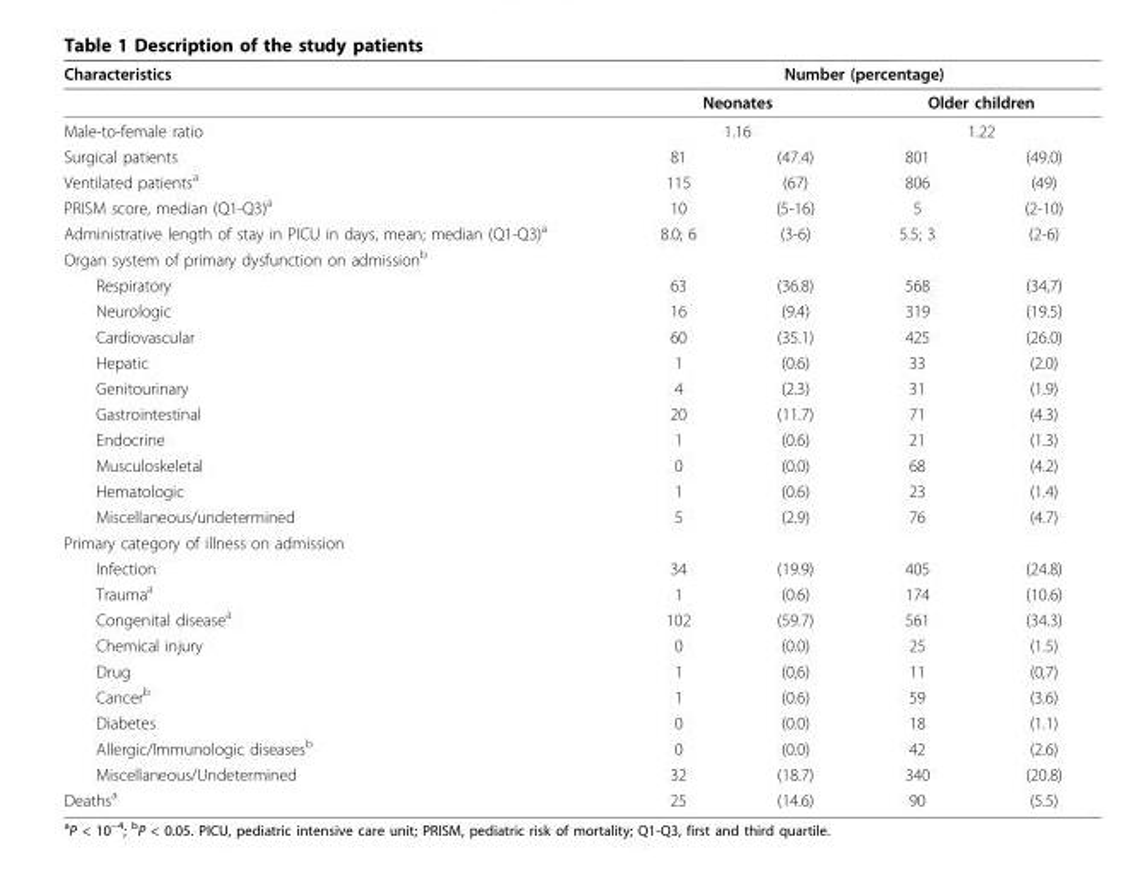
<table><thead><tr><td rowspan="4">Characteristics Male-to-female ratio Surgical patients</td><td colspan="4">Number (percentage)</td></tr><tr><td rowspan="2" colspan="2">Neonates 1.16</td><td rowspan="2" colspan="2">Older children 1.22</td></tr><tr></tr><tr><td>81</td><td>(47.4)</td><td>801</td><td>(49.0)</td></tr></thead><tbody><tr><td>Ventilated patients<sup>a</sup></td><td>115</td><td>(67)</td><td>806</td><td>(49)</td></tr><tr><td>PRISM score, median (Q1-Q3)<sup>a</sup></td><td>10</td><td>(5-16)</td><td>5</td><td>(2-10)</td></tr><tr><td>Administrative length of stay in PICU in days, mean; median (Q1-Q3)<sup>a</sup></td><td>8.0; 6</td><td>(3-6)</td><td>5.5; 3</td><td>(2-6)</td></tr><tr><td colspan="5">Organ system of primary dysfunction on admission<sup>b</sup></td></tr><tr><td>Respiratory</td><td>63</td><td>(36.8)</td><td>568</td><td>(34,7)</td></tr><tr><td>Neurologic</td><td>16</td><td>(9.4)</td><td>319</td><td>(19.5)</td></tr><tr><td>Cardiovascular</td><td>60</td><td>(35.1)</td><td>425</td><td>(26.0)</td></tr><tr><td>Hepatic</td><td>1</td><td>(0.6)</td><td>33</td><td>(2.0)</td></tr><tr><td>Genitourinary</td><td>4</td><td>(2.3)</td><td>31</td><td>(1.9)</td></tr><tr><td>Gastrointestinal</td><td>20</td><td>(11.7)</td><td>71</td><td>(4.3)</td></tr><tr><td>Endocrine</td><td>1</td><td>(0.6)</td><td>21</td><td>(1.3)</td></tr><tr><td>Musculoskeletal</td><td>0</td><td>(0.0)</td><td>68</td><td>(4.2)</td></tr><tr><td>Hematologic</td><td>1</td><td>(0.6)</td><td>23</td><td>(1.4)</td></tr><tr><td>Miscellaneous/undetermined</td><td>5</td><td>(2.9)</td><td>76</td><td>(4.7)</td></tr><tr><td colspan="5">Primary category of illness on admission</td></tr><tr><td>Infection</td><td>34</td><td>(19.9)</td><td>405</td><td>(24.8)</td></tr><tr><td>Trauma<sup>a</sup></td><td>1</td><td>(0.6)</td><td>174</td><td>(10.6)</td></tr><tr><td>Congenital disease<sup>a</sup></td><td>102</td><td>(59.7)</td><td>561</td><td>(34.3)</td></tr><tr><td>Chemical injury</td><td>0</td><td>(0.0)</td><td>25</td><td>(1.5)</td></tr><tr><td>Drug</td><td>1</td><td>(0,6)</td><td>11</td><td>(0,7)</td></tr><tr><td>Cancer<sup>b</sup></td><td>1</td><td>(0.6)</td><td>59</td><td>(3.6)</td></tr><tr><td>Diabetes</td><td>0</td><td>(0.0)</td><td>18</td><td>(1.1)</td></tr><tr><td>Allergic/Immunologic diseases<sup>b</sup></td><td>0</td><td>(0.0)</td><td>42</td><td>(2.6)</td></tr><tr><td>Miscellaneous/Undetermined</td><td>32</td><td>(18.7)</td><td>340</td><td>(20.8)</td></tr><tr><td>Deaths<sup>a</sup></td><td>25</td><td>(14.6)</td><td>90</td><td>(5.5)</td></tr></tbody></table>